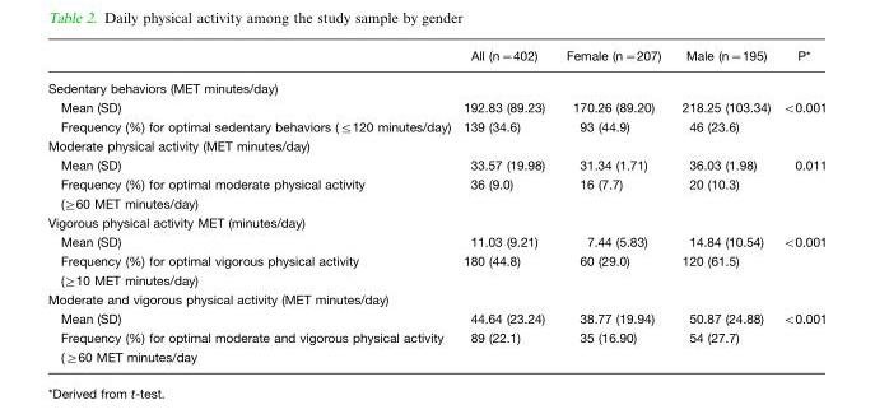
<table><thead><tr><td></td><td>All (n=402)</td><td>Female (n=207)</td><td>Male (n=195)</td><td>P*</td></tr></thead><tbody><tr><td colspan="5">Sedentary behaviors (MET minutes/day)</td></tr><tr><td>Mean (SD)</td><td>192.83 (89.23)</td><td>170.26 (89.20)</td><td>218.25 (103.34)</td><td>&lt;0.001</td></tr><tr><td>Frequency (%) for optimal sedentary behaviors (≤120 minutes/day)</td><td>139 (34.6)</td><td>93 (44.9)</td><td>46 (23.6)</td><td></td></tr><tr><td colspan="5">Moderate physical activity (MET minutes/day)</td></tr><tr><td>Mean (SD)</td><td>33.57 (19.98)</td><td>31.34 (1.71)</td><td>36.03 (1.98)</td><td>0.011</td></tr><tr><td>Frequency (%) for optimal moderate physical activity (≥60 MET minutes/day)</td><td>36 (9.0)</td><td>16 (7.7)</td><td>20 (10.3)</td><td></td></tr><tr><td colspan="5">Vigorous physical activity MET (minutes/day)</td></tr><tr><td>Mean (SD)</td><td>11.03 (9.21)</td><td>7.44 (5.83)</td><td>14.84 (10.54)</td><td>&lt;0.001</td></tr><tr><td>Frequency (%) for optimal vigorous physical activity (≥10 MET minutes/day)</td><td>180 (44.8)</td><td>60 (29.0)</td><td>120 (61.5)</td><td></td></tr><tr><td colspan="5">Moderate and vigorous physical activity (MET minutes/day)</td></tr><tr><td>Mean (SD)</td><td>44.64 (23.24)</td><td>38.77 (19.94)</td><td>50.87 (24.88)</td><td>&lt;0.001</td></tr><tr><td>Frequency (%) for optimal moderate and vigorous physical activity (≥60 MET minutes/day</td><td>89 (22.1)</td><td>35 (16.90)</td><td>54 (27.7)</td><td></td></tr></tbody></table>